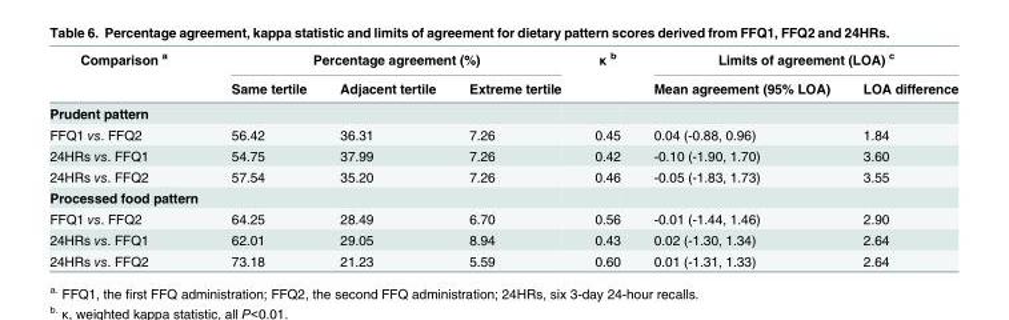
<table><thead><tr><td rowspan="2">Comparison <sup>a</sup></td><td colspan="3">Percentage agreement (%)</td><td rowspan="2">κ <sup>b</sup></td><td colspan="2">Limits of agreement (LOA) <sup>c</sup></td></tr><tr><td>Same tertile</td><td>Adjacent tertile</td><td>Extreme tertile</td><td>Mean agreement (95% LOA)</td><td>LOA difference</td></tr></thead><tbody><tr><td colspan="7">Prudent pattern</td></tr><tr><td>FFQ1 vs. FFQ2</td><td>56.42</td><td>36.31</td><td>7.26</td><td>0.45</td><td>0.04 (-0.88, 0.96)</td><td>1.84</td></tr><tr><td>24HRs vs. FFQ1</td><td>54.75</td><td>37.99</td><td>7.26</td><td>0.42</td><td>-0.10 (-1.90, 1.70)</td><td>3.60</td></tr><tr><td>24HRs vs. FFQ2</td><td>57.54</td><td>35.20</td><td>7.26</td><td>0.46</td><td>-0.05 (-1.83, 1.73)</td><td>3.55</td></tr><tr><td colspan="7">Processed food pattern</td></tr><tr><td>FFQ1 vs. FFQ2</td><td>64.25</td><td>28.49</td><td>6.70</td><td>0.56</td><td>-0.01 (-1.44, 1.46)</td><td>2.90</td></tr><tr><td>24HRs vs. FFQ1</td><td>62.01</td><td>29.05</td><td>8.94</td><td>0.43</td><td>0.02 (-1.30, 1.34)</td><td>2.64</td></tr><tr><td>24HRs vs. FFQ2</td><td>73.18</td><td>21.23</td><td>5.59</td><td>0.60</td><td>0.01 (-1.31, 1.33)</td><td>2.64</td></tr></tbody></table>